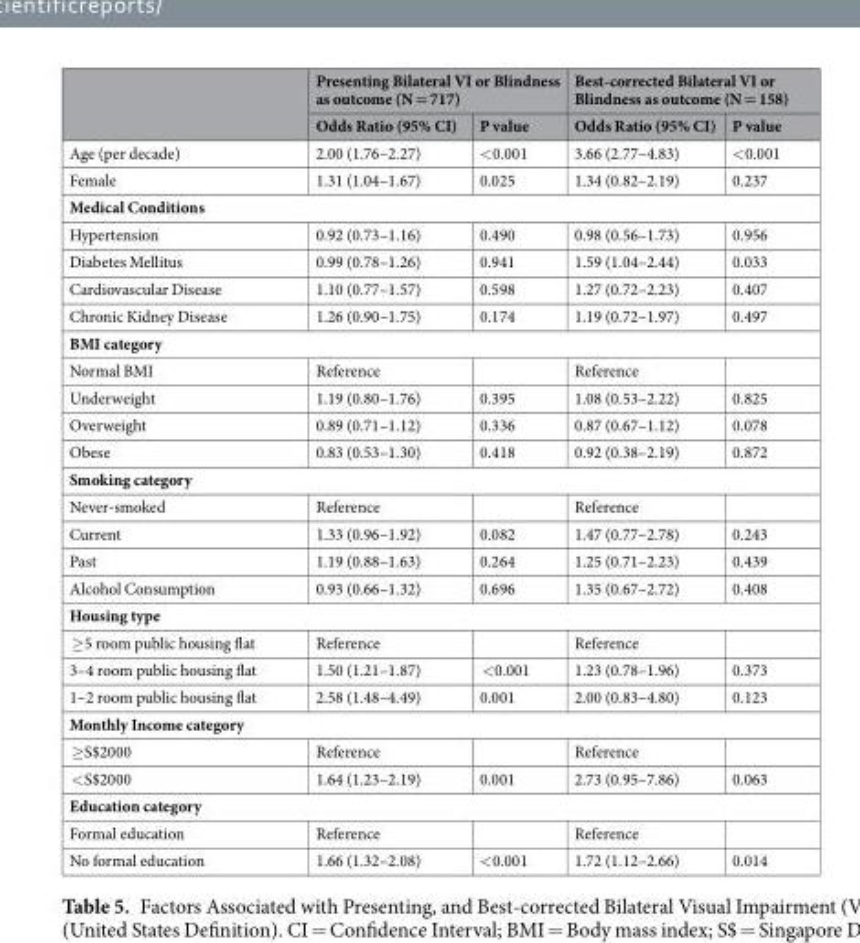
<table><thead><tr><td rowspan="2"></td><td colspan="2">Presenting Bilateral VI or Blindness as outcome (N = 717)</td><td colspan="2">Best-corrected Bilateral VI or Blindness as outcome (N = 158)</td></tr><tr><td>Odds Ratio (95% CI)</td><td>P value</td><td>Odds Ratio (95% CI)</td><td>P value</td></tr></thead><tbody><tr><td>Age (per decade)</td><td>2.00 (1.76–2.27)</td><td>&lt;0.001</td><td>3.66 (2.77–4.83)</td><td>&lt;0.001</td></tr><tr><td>Female</td><td>1.31 (1.04–1.67)</td><td>0.025</td><td>1.34 (0.82–2.19)</td><td>0.237</td></tr><tr><td colspan="5">Medical Conditions</td></tr><tr><td>Hypertension</td><td>0.92 (0.73–1.16)</td><td>0.490</td><td>0.98 (0.56–1.73)</td><td>0.956</td></tr><tr><td>Diabetes Mellitus</td><td>0.99 (0.78–1.26)</td><td>0.941</td><td>1.59 (1.04–2.44)</td><td>0.033</td></tr><tr><td>Cardiovascular Disease</td><td>1.10 (0.77–1.57)</td><td>0.598</td><td>1.27 (0.72–2.23)</td><td>0.407</td></tr><tr><td>Chronic Kidney Disease</td><td>1.26 (0.90–1.75)</td><td>0.174</td><td>1.19 (0.72–1.97)</td><td>0.497</td></tr><tr><td colspan="5">BMI category</td></tr><tr><td>Normal BMI</td><td>Reference</td><td></td><td>Reference</td><td></td></tr><tr><td>Underweight</td><td>1.19 (0.80–1.76)</td><td>0.395</td><td>1.08 (0.53–2.22)</td><td>0.825</td></tr><tr><td>Overweight</td><td>0.89 (0.71–1.12)</td><td>0.336</td><td>0.87 (0.67–1.12)</td><td>0.078</td></tr><tr><td>Obese</td><td>0.83 (0.53–1.30)</td><td>0.418</td><td>0.92 (0.38–2.19)</td><td>0.872</td></tr><tr><td colspan="5">Smoking category</td></tr><tr><td>Never-smoked</td><td>Reference</td><td></td><td>Reference</td><td></td></tr><tr><td>Current</td><td>1.33 (0.96–1.92)</td><td>0.082</td><td>1.47 (0.77–2.78)</td><td>0.243</td></tr><tr><td>Past</td><td>1.19 (0.88–1.63)</td><td>0.264</td><td>1.25 (0.71–2.23)</td><td>0.439</td></tr><tr><td>Alcohol Consumption</td><td>0.93 (0.66–1.32)</td><td>0.696</td><td>1.35 (0.67–2.72)</td><td>0.408</td></tr><tr><td colspan="5">Housing type</td></tr><tr><td>≥5 room public housing flat</td><td>Reference</td><td></td><td>Reference</td><td></td></tr><tr><td>3–4 room public housing flat</td><td>1.50 (1.21–1.87)</td><td>&lt;0.001</td><td>1.23 (0.78–1.96)</td><td>0.373</td></tr><tr><td>1–2 room public housing flat</td><td>2.58 (1.48–4.49)</td><td>0.001</td><td>2.00 (0.83–4.80)</td><td>0.123</td></tr><tr><td colspan="5">Monthly Income category</td></tr><tr><td>≥S$2000</td><td>Reference</td><td></td><td>Reference</td><td></td></tr><tr><td>&lt;S$2000</td><td>1.64 (1.23–2.19)</td><td>0.001</td><td>2.73 (0.95–7.86)</td><td>0.063</td></tr><tr><td colspan="5">Education category</td></tr><tr><td>Formal education</td><td>Reference</td><td></td><td>Reference</td><td></td></tr><tr><td>No formal education</td><td>1.66 (1.32–2.08)</td><td>&lt;0.001</td><td>1.72 (1.12–2.66)</td><td>0.014</td></tr></tbody></table>